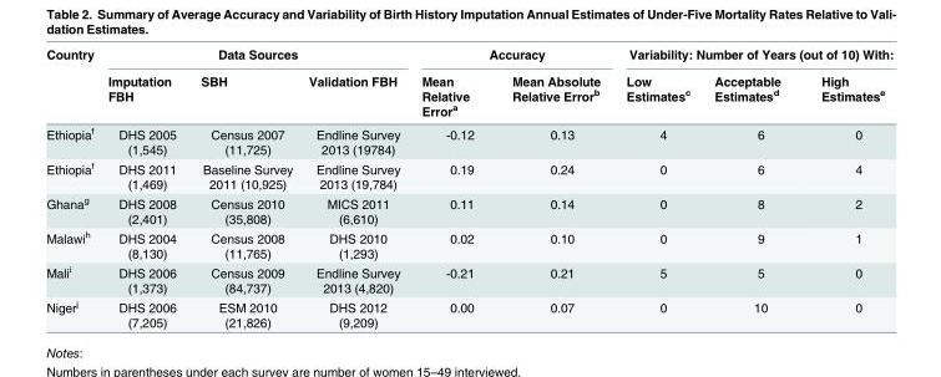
<table><thead><tr><td rowspan="2">Country</td><td colspan="3">Data Sources</td><td colspan="2">Accuracy</td><td colspan="3">Variability: Number of Years (out of 10) With:</td></tr><tr><td>Imputation FBH</td><td>SBH</td><td>Validation FBH</td><td>Mean Relative Error<sup>a</sup></td><td>Mean Absolute Relative Error<sup>b</sup></td><td>Low Estimates<sup>c</sup></td><td>Acceptable Estimates<sup>d</sup></td><td>High Estimates<sup>e</sup></td></tr></thead><tbody><tr><td>Ethiopia<sup>f</sup></td><td>DHS 2005 (1,545)</td><td>Census 2007 (11,725)</td><td>Endline Survey 2013 (19784)</td><td>-0.12</td><td>0.13</td><td>4</td><td>6</td><td>0</td></tr><tr><td>Ethiopia<sup>f</sup></td><td>DHS 2011 (1,469)</td><td>Baseline Survey 2011 (10,925)</td><td>Endline Survey 2013 (19,784)</td><td>0.19</td><td>0.24</td><td>0</td><td>6</td><td>4</td></tr><tr><td>Ghana<sup>g</sup></td><td>DHS 2008 (2,401)</td><td>Census 2010 (35,808)</td><td>MICS 2011 (6,610)</td><td>0.11</td><td>0.14</td><td>0</td><td>8</td><td>2</td></tr><tr><td>Malawi<sup>h</sup></td><td>DHS 2004 (8,130)</td><td>Census 2008 (11,765)</td><td>DHS 2010 (1,293)</td><td>0.02</td><td>0.10</td><td>0</td><td>9</td><td>1</td></tr><tr><td>Mali<sup>i</sup></td><td>DHS 2006 (1,373)</td><td>Census 2009 (84,737)</td><td>Endline Survey 2013 (4,820)</td><td>-0.21</td><td>0.21</td><td>5</td><td>5</td><td>0</td></tr><tr><td>Niger<sup>j</sup></td><td>DHS 2006 (7,205)</td><td>ESM 2010 (21,826)</td><td>DHS 2012 (9,209)</td><td>0.00</td><td>0.07</td><td>0</td><td>10</td><td>0</td></tr></tbody></table>